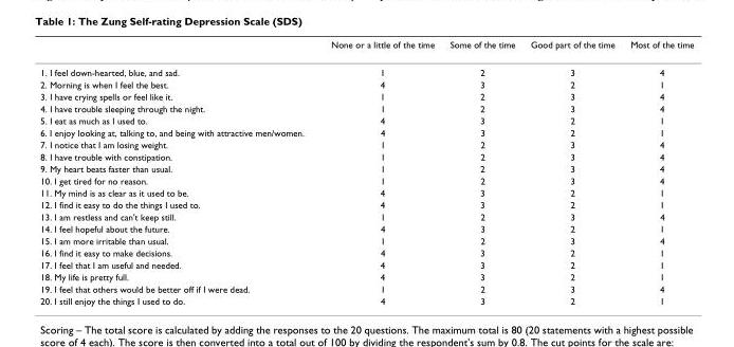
<table><thead><tr><td></td><td>None or a little of the time</td><td>Some of the time</td><td>Good part of the time</td><td>Most of the time</td></tr></thead><tbody><tr><td>1. I feel down-hearted, blue, and sad.</td><td>1</td><td>2</td><td>3</td><td>4</td></tr><tr><td>2. Morning is when I feel the best.</td><td>4</td><td>3</td><td>2</td><td>1</td></tr><tr><td>3. I have crying spells or feel like it.</td><td>1</td><td>2</td><td>3</td><td>4</td></tr><tr><td>4. I have trouble sleeping through the night.</td><td>1</td><td>2</td><td>3</td><td>4</td></tr><tr><td>5. I eat as much as I used to.</td><td>4</td><td>3</td><td>2</td><td>1</td></tr><tr><td>6. I enjoy looking at, talking to, and being with attractive men/women.</td><td>4</td><td>3</td><td>2</td><td>1</td></tr><tr><td>7. I notice that I am losing weight.</td><td>1</td><td>2</td><td>3</td><td>4</td></tr><tr><td>8. I have trouble with constipation.</td><td>1</td><td>2</td><td>3</td><td>4</td></tr><tr><td>9. My heart beats faster than usual.</td><td>1</td><td>2</td><td>3</td><td>4</td></tr><tr><td>10. I get tired for no reason.</td><td>1</td><td>2</td><td>3</td><td>4</td></tr><tr><td>11. My mind is as clear as it used to be.</td><td>4</td><td>3</td><td>2</td><td>1</td></tr><tr><td>12. I find it easy to do the things I used to.</td><td>4</td><td>3</td><td>2</td><td>1</td></tr><tr><td>13. I am restless and can&#x27;t keep still.</td><td>1</td><td>2</td><td>3</td><td>4</td></tr><tr><td>14. I feel hopeful about the future.</td><td>4</td><td>3</td><td>2</td><td>1</td></tr><tr><td>15. I am more irritable than usual.</td><td>1</td><td>2</td><td>3</td><td>4</td></tr><tr><td>16. I find it easy to make decisions.</td><td>4</td><td>3</td><td>2</td><td>1</td></tr><tr><td>17. I feel that I am useful and needed.</td><td>4</td><td>3</td><td>2</td><td>1</td></tr><tr><td>18. My life is pretty full.</td><td>4</td><td>3</td><td>2</td><td>1</td></tr><tr><td>19. I feel that others would be better off if I were dead.</td><td>1</td><td>2</td><td>3</td><td>4</td></tr><tr><td>20. I still enjoy the things I used to do.</td><td>4</td><td>3</td><td>2</td><td>1</td></tr></tbody></table>